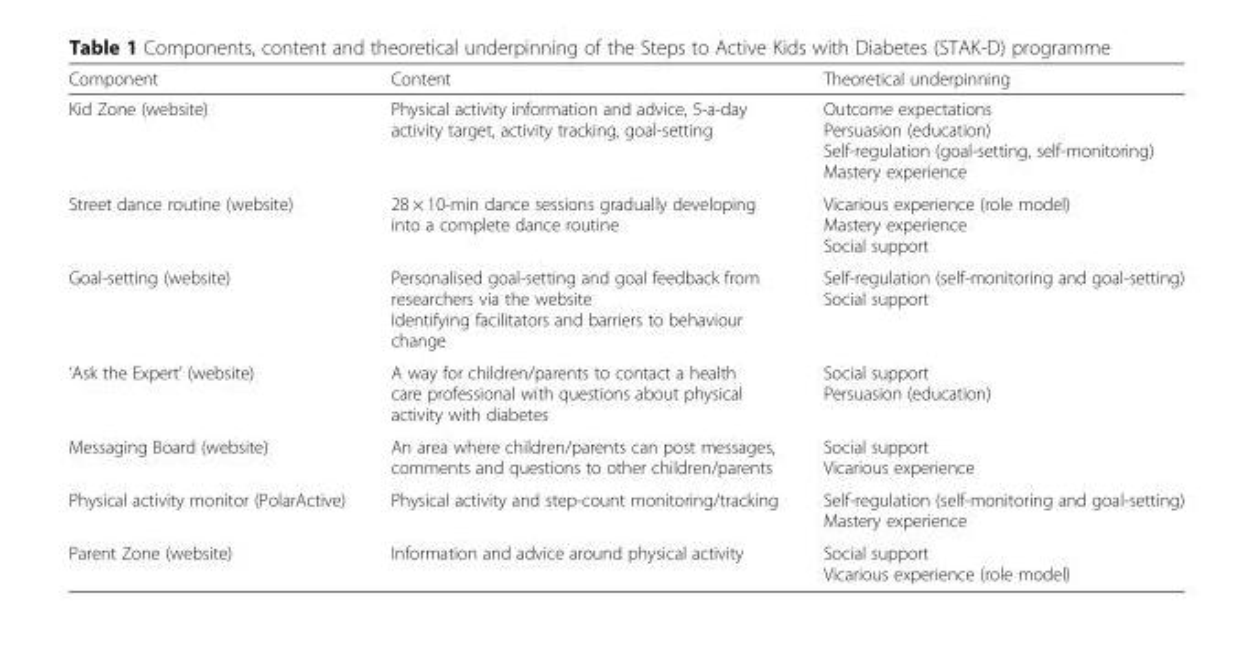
<table><thead><tr><td>Component</td><td>Content</td><td>Theoretical underpinning</td></tr></thead><tbody><tr><td>Kid Zone (website)</td><td>Physical activity information and advice, 5-a-day activity target, activity tracking, goal-setting</td><td>Outcome expectations Persuasion (education) Self-regulation (goal-setting, self-monitoring) Mastery experience</td></tr><tr><td>Street dance routine (website)</td><td>28 × 10-min dance sessions gradually developing into a complete dance routine</td><td>Vicarious experience (role model) Mastery experience Social support</td></tr><tr><td>Goal-setting (website)</td><td>Personalised goal-setting and goal feedback from researchers via the website Identifying facilitators and barriers to behaviour change</td><td>Self-regulation (self-monitoring and goal-setting) Social support</td></tr><tr><td>‘Ask the Expert’ (website)</td><td>A way for children/parents to contact a health care professional with questions about physical activity with diabetes</td><td>Social support Persuasion (education)</td></tr><tr><td>Messaging Board (website)</td><td>An area where children/parents can post messages, comments and questions to other children/parents</td><td>Social support Vicarious experience</td></tr><tr><td>Physical activity monitor (PolarActive)</td><td>Physical activity and step-count monitoring/tracking</td><td>Self-regulation (self-monitoring and goal-setting) Mastery experience</td></tr><tr><td>Parent Zone (website)</td><td>Information and advice around physical activity</td><td>Social support Vicarious experience (role model)</td></tr></tbody></table>